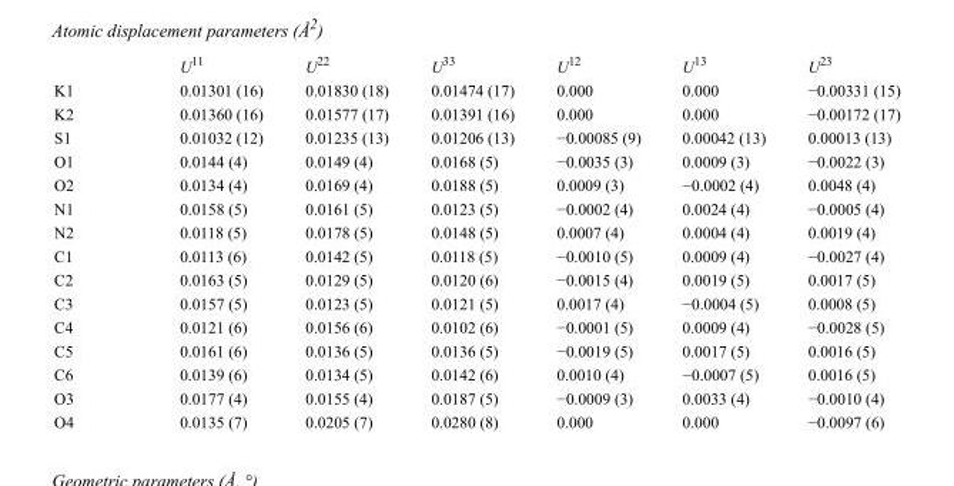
<table><thead><tr><td></td><td>U<sup>11</sup></td><td>U<sup>22</sup></td><td>U<sup>33</sup></td><td>U<sup>12</sup></td><td>U<sup>13</sup></td><td>U<sup>23</sup></td></tr></thead><tbody><tr><td>K1</td><td>0.01301 (16)</td><td>0.01830 (18)</td><td>0.01474 (17)</td><td>0.000</td><td>0.000</td><td>−0.00331 (15)</td></tr><tr><td>K2</td><td>0.01360 (16)</td><td>0.01577 (17)</td><td>0.01391 (16)</td><td>0.000</td><td>0.000</td><td>−0.00172 (17)</td></tr><tr><td>S1</td><td>0.01032 (12)</td><td>0.01235 (13)</td><td>0.01206 (13)</td><td>−0.00085 (9)</td><td>0.00042 (13)</td><td>0.00013 (13)</td></tr><tr><td>O1</td><td>0.0144 (4)</td><td>0.0149 (4)</td><td>0.0168 (5)</td><td>−0.0035 (3)</td><td>0.0009 (3)</td><td>−0.0022 (3)</td></tr><tr><td>O2</td><td>0.0134 (4)</td><td>0.0169 (4)</td><td>0.0188 (5)</td><td>0.0009 (3)</td><td>−0.0002 (4)</td><td>0.0048 (4)</td></tr><tr><td>N1</td><td>0.0158 (5)</td><td>0.0161 (5)</td><td>0.0123 (5)</td><td>−0.0002 (4)</td><td>0.0024 (4)</td><td>−0.0005 (4)</td></tr><tr><td>N2</td><td>0.0118 (5)</td><td>0.0178 (5)</td><td>0.0148 (5)</td><td>0.0007 (4)</td><td>0.0004 (4)</td><td>0.0019 (4)</td></tr><tr><td>C1</td><td>0.0113 (6)</td><td>0.0142 (5)</td><td>0.0118 (5)</td><td>−0.0010 (5)</td><td>0.0009 (4)</td><td>−0.0027 (4)</td></tr><tr><td>C2</td><td>0.0163 (5)</td><td>0.0129 (5)</td><td>0.0120 (6)</td><td>−0.0015 (4)</td><td>0.0019 (5)</td><td>0.0017 (5)</td></tr><tr><td>C3</td><td>0.0157 (5)</td><td>0.0123 (5)</td><td>0.0121 (5)</td><td>0.0017 (4)</td><td>−0.0004 (5)</td><td>0.0008 (5)</td></tr><tr><td>C4</td><td>0.0121 (6)</td><td>0.0156 (6)</td><td>0.0102 (6)</td><td>−0.0001 (5)</td><td>0.0009 (4)</td><td>−0.0028 (5)</td></tr><tr><td>C5</td><td>0.0161 (6)</td><td>0.0136 (5)</td><td>0.0136 (5)</td><td>−0.0019 (5)</td><td>0.0017 (5)</td><td>0.0016 (5)</td></tr><tr><td>C6</td><td>0.0139 (6)</td><td>0.0134 (5)</td><td>0.0142 (6)</td><td>0.0010 (4)</td><td>−0.0007 (5)</td><td>0.0016 (5)</td></tr><tr><td>O3</td><td>0.0177 (4)</td><td>0.0155 (4)</td><td>0.0187 (5)</td><td>−0.0009 (3)</td><td>0.0033 (4)</td><td>−0.0010 (4)</td></tr><tr><td>O4</td><td>0.0135 (7)</td><td>0.0205 (7)</td><td>0.0280 (8)</td><td>0.000</td><td>0.000</td><td>−0.0097 (6)</td></tr></tbody></table>